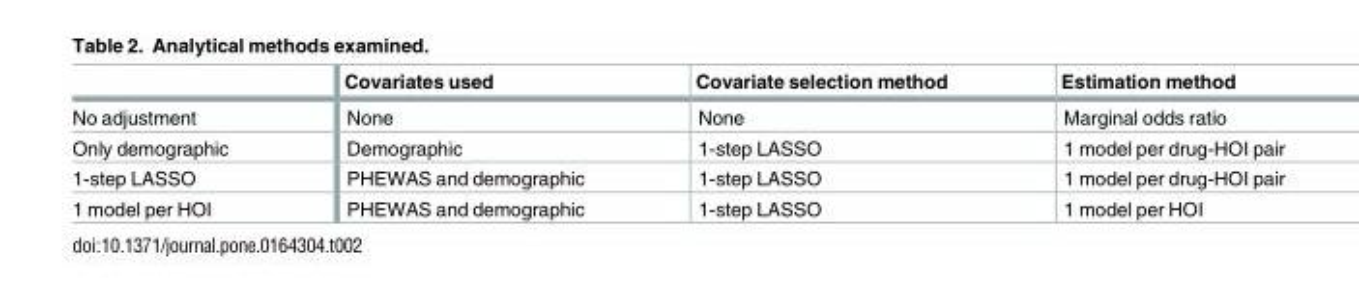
<table><thead><tr><td></td><td>Covariates used</td><td>Covariate selection method</td><td>Estimation method</td></tr></thead><tbody><tr><td>No adjustment</td><td>None</td><td>None</td><td>Marginal odds ratio</td></tr><tr><td>Only demographic</td><td>Demographic</td><td>1-step LASSO</td><td>1 model per drug-HOI pair</td></tr><tr><td>1-step LASSO</td><td>PHEWAS and demographic</td><td>1-step LASSO</td><td>1 model per drug-HOI pair</td></tr><tr><td>1 model per HOI</td><td>PHEWAS and demographic</td><td>1-step LASSO</td><td>1 model per HOI</td></tr></tbody></table>